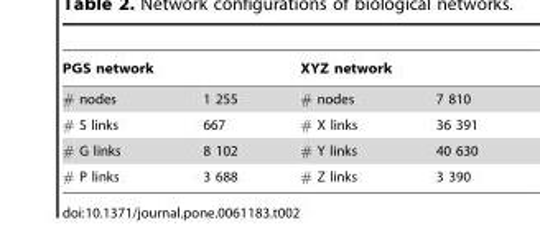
<table><thead><tr><td colspan="2">PGS network</td><td colspan="2">XYZ network</td></tr><tr><td># nodes</td><td>1 255</td><td># nodes</td><td>7 810</td></tr></thead><tbody><tr><td># S links</td><td>667</td><td># X links</td><td>36 391</td></tr><tr><td># G links</td><td>8 102</td><td># Y links</td><td>40 630</td></tr><tr><td># P links</td><td>3 688</td><td># Z links</td><td>3 390</td></tr></tbody></table>